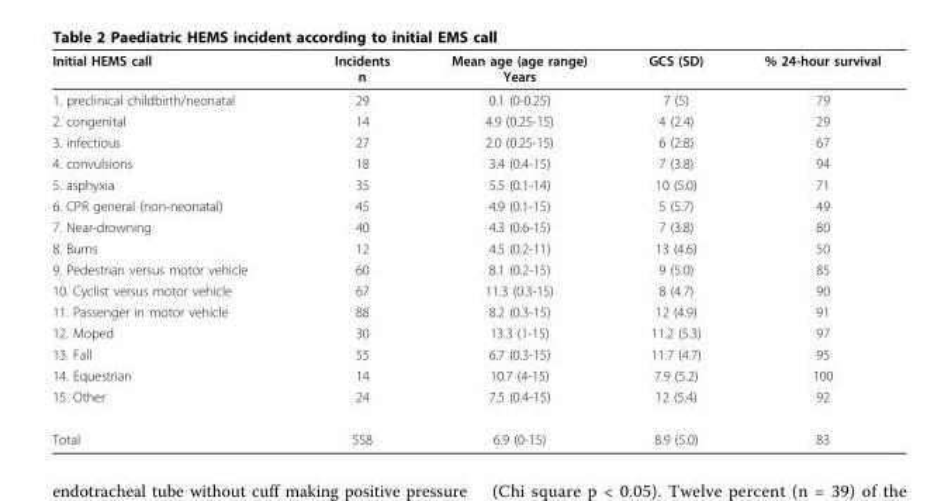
<table><thead><tr><td>Initial HEMS call</td><td>Incidents n</td><td>Mean age (age range) Years</td><td>GCS (SD)</td><td>% 24-hour survival</td></tr></thead><tbody><tr><td>1. preclinical childbirth/neonatal</td><td>29</td><td>0.1 (0-0.25)</td><td>7 (5)</td><td>79</td></tr><tr><td>2. congenital</td><td>14</td><td>4.9 (0.25-15)</td><td>4 (2.4)</td><td>29</td></tr><tr><td>3. infectious</td><td>27</td><td>2.0 (0.25-15)</td><td>6 (2.8)</td><td>67</td></tr><tr><td>4. convulsions</td><td>18</td><td>3.4 (0.4-15)</td><td>7 (3.8)</td><td>94</td></tr><tr><td>5. asphyxia</td><td>35</td><td>5.5 (0.1-14)</td><td>10 (5.0)</td><td>71</td></tr><tr><td>6. CPR general (non-neonatal)</td><td>45</td><td>4.9 (0.1-15)</td><td>5 (5.7)</td><td>49</td></tr><tr><td>7. Near-drowning</td><td>40</td><td>4.3 (0.6-15)</td><td>7 (3.8)</td><td>80</td></tr><tr><td>8. Burns</td><td>12</td><td>4.5 (0.2-11)</td><td>13 (4.6)</td><td>50</td></tr><tr><td>9. Pedestrian versus motor vehicle</td><td>60</td><td>8.1 (0.2-15)</td><td>9 (5.0)</td><td>85</td></tr><tr><td>10. Cyclist versus motor vehicle</td><td>67</td><td>11.3 (0.3-15)</td><td>8 (4.7)</td><td>90</td></tr><tr><td>11. Passenger in motor vehicle</td><td>88</td><td>8.2 (0.3-15)</td><td>12 (4.9)</td><td>91</td></tr><tr><td>12. Moped</td><td>30</td><td>13.3 (1-15)</td><td>11.2 (5.3)</td><td>97</td></tr><tr><td>13. Fall</td><td>55</td><td>6.7 (0.3-15)</td><td>11.7 (4.7)</td><td>95</td></tr><tr><td>14. Equestrian</td><td>14</td><td>10.7 (4-15)</td><td>7.9 (5.2)</td><td>100</td></tr><tr><td>15. Other</td><td>24</td><td>7.5 (0.4-15)</td><td>12 (5.4)</td><td>92</td></tr><tr><td>Total</td><td>558</td><td>6.9 (0-15)</td><td>8.9 (5.0)</td><td>83</td></tr></tbody></table>